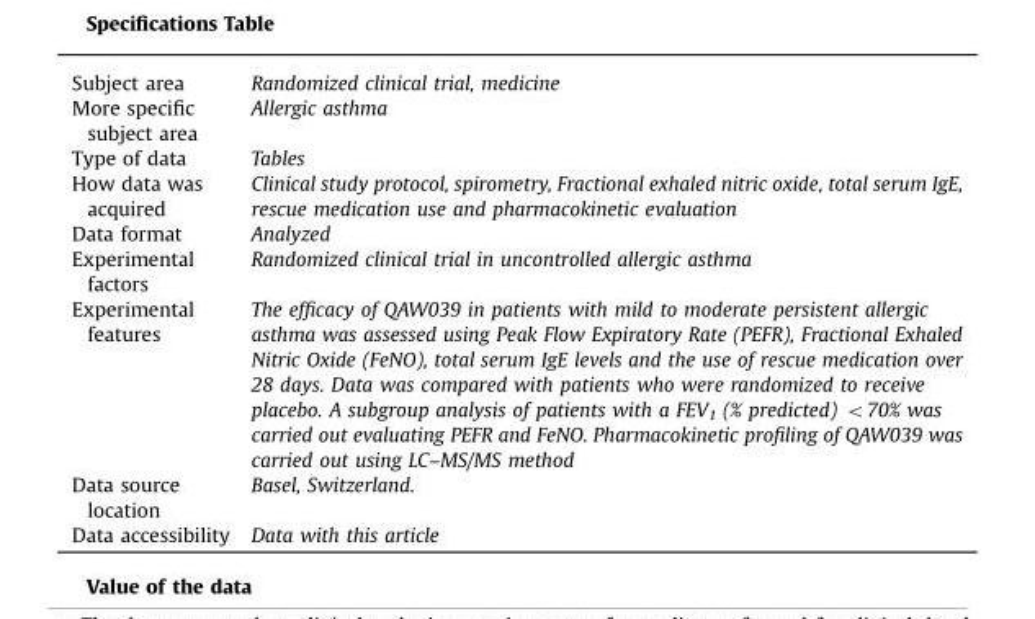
<table><tbody><tr><td>Subject area</td><td>Randomized clinical trial, medicine</td></tr><tr><td>More specific subject area</td><td>Allergic asthma</td></tr><tr><td>Type of data</td><td>Tables</td></tr><tr><td>How data was acquired</td><td>Clinical study protocol, spirometry, Fractional exhaled nitric oxide, total serum IgE, rescue medication use and pharmacokinetic evaluation</td></tr><tr><td>Data format</td><td>Analyzed</td></tr><tr><td>Experimental factors</td><td>Randomized clinical trial in uncontrolled allergic asthma</td></tr><tr><td>Experimental features</td><td>The efficacy of QAW039 in patients with mild to moderate persistent allergic asthma was assessed using Peak Flow Expiratory Rate (PEFR), Fractional Exhaled Nitric Oxide (FeNO), total serum IgE levels and the use of rescue medication over 28 days. Data was compared with patients who were randomized to receive placebo. A subgroup analysis of patients with a FEV<sub>1</sub> (% predicted) &lt;70% was carried out evaluating PEFR and FeNO. Pharmacokinetic profiling of QAW039 was carried out using LC–MS/MS method</td></tr><tr><td>Data source location</td><td>Basel, Switzerland.</td></tr><tr><td>Data accessibility</td><td>Data with this article</td></tr></tbody></table>